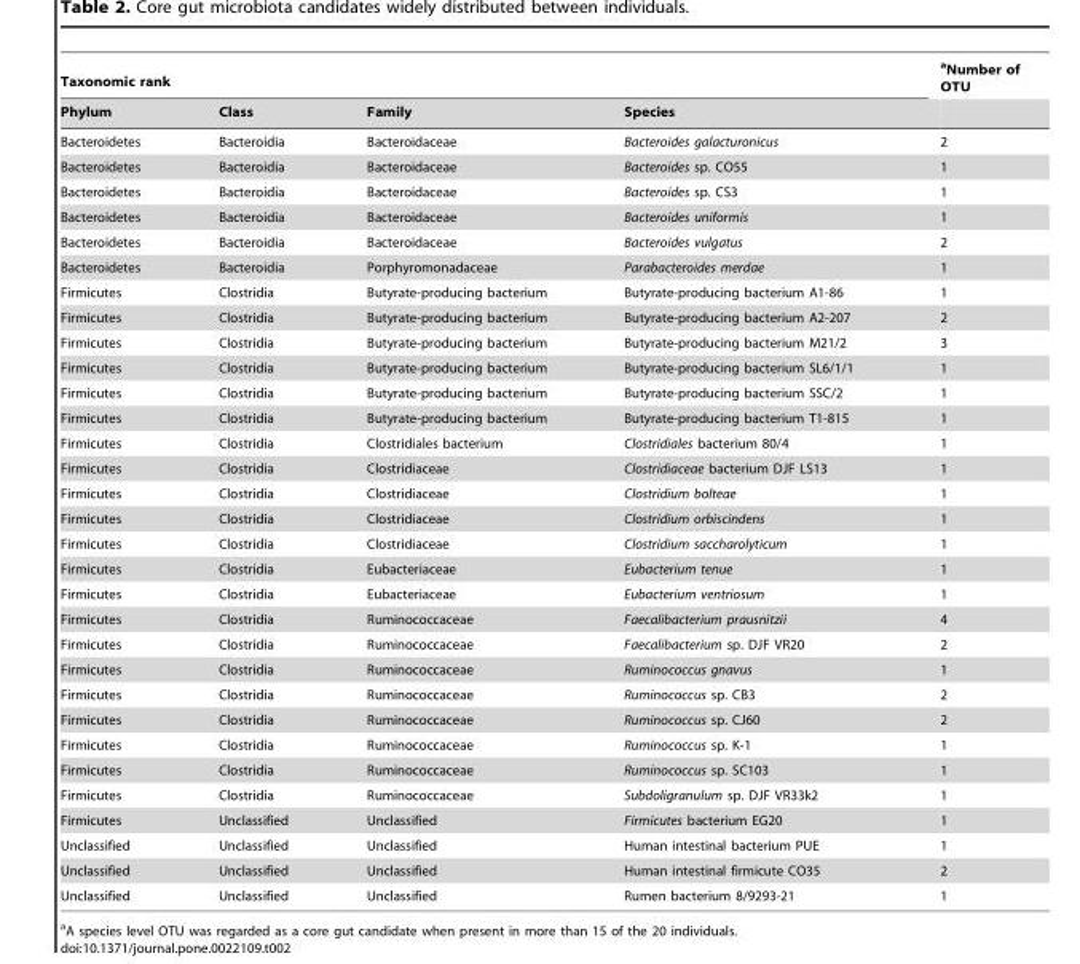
<table><thead><tr><td colspan="4">Taxonomic rank</td><td rowspan="2">aNumber of OTU</td></tr><tr><td>Phylum</td><td>Class</td><td>Family</td><td>Species</td></tr></thead><tbody><tr><td>Bacteroidetes</td><td>Bacteroidia</td><td>Bacteroidaceae</td><td>Bacteroides galacturonicus</td><td>2</td></tr><tr><td>Bacteroidetes</td><td>Bacteroidia</td><td>Bacteroidaceae</td><td>Bacteroides sp. CO55</td><td>1</td></tr><tr><td>Bacteroidetes</td><td>Bacteroidia</td><td>Bacteroidaceae</td><td>Bacteroides sp. CS3</td><td>1</td></tr><tr><td>Bacteroidetes</td><td>Bacteroidia</td><td>Bacteroidaceae</td><td>Bacteroides uniformis</td><td>1</td></tr><tr><td>Bacteroidetes</td><td>Bacteroidia</td><td>Bacteroidaceae</td><td>Bacteroides vulgatus</td><td>2</td></tr><tr><td>Bacteroidetes</td><td>Bacteroidia</td><td>Porphyromonadaceae</td><td>Parabacteroides merdae</td><td>1</td></tr><tr><td>Firmicutes</td><td>Clostridia</td><td>Butyrate-producing bacterium</td><td>Butyrate-producing bacterium A1-86</td><td>1</td></tr><tr><td>Firmicutes</td><td>Clostridia</td><td>Butyrate-producing bacterium</td><td>Butyrate-producing bacterium A2-207</td><td>2</td></tr><tr><td>Firmicutes</td><td>Clostridia</td><td>Butyrate-producing bacterium</td><td>Butyrate-producing bacterium M21/2</td><td>3</td></tr><tr><td>Firmicutes</td><td>Clostridia</td><td>Butyrate-producing bacterium</td><td>Butyrate-producing bacterium SL6/1/1</td><td>1</td></tr><tr><td>Firmicutes</td><td>Clostridia</td><td>Butyrate-producing bacterium</td><td>Butyrate-producing bacterium SSC/2</td><td>1</td></tr><tr><td>Firmicutes</td><td>Clostridia</td><td>Butyrate-producing bacterium</td><td>Butyrate-producing bacterium T1-815</td><td>1</td></tr><tr><td>Firmicutes</td><td>Clostridia</td><td>Clostridiales bacterium</td><td>Clostridiales bacterium 80/4</td><td>1</td></tr><tr><td>Firmicutes</td><td>Clostridia</td><td>Clostridiaceae</td><td>Clostridiaceae bacterium DJF LS13</td><td>1</td></tr><tr><td>Firmicutes</td><td>Clostridia</td><td>Clostridiaceae</td><td>Clostridium bolteae</td><td>1</td></tr><tr><td>Firmicutes</td><td>Clostridia</td><td>Clostridiaceae</td><td>Clostridium orbiscindens</td><td>1</td></tr><tr><td>Firmicutes</td><td>Clostridia</td><td>Clostridiaceae</td><td>Clostridium saccharolyticum</td><td>1</td></tr><tr><td>Firmicutes</td><td>Clostridia</td><td>Eubacteriaceae</td><td>Eubacterium tenue</td><td>1</td></tr><tr><td>Firmicutes</td><td>Clostridia</td><td>Eubacteriaceae</td><td>Eubacterium ventriosum</td><td>1</td></tr><tr><td>Firmicutes</td><td>Clostridia</td><td>Ruminococcaceae</td><td>Faecalibacterium prausnitzii</td><td>4</td></tr><tr><td>Firmicutes</td><td>Clostridia</td><td>Ruminococcaceae</td><td>Faecalibacterium sp. DJF VR20</td><td>2</td></tr><tr><td>Firmicutes</td><td>Clostridia</td><td>Ruminococcaceae</td><td>Ruminococcus gnavus</td><td>1</td></tr><tr><td>Firmicutes</td><td>Clostridia</td><td>Ruminococcaceae</td><td>Ruminococcus sp. CB3</td><td>2</td></tr><tr><td>Firmicutes</td><td>Clostridia</td><td>Ruminococcaceae</td><td>Ruminococcus sp. CJ60</td><td>2</td></tr><tr><td>Firmicutes</td><td>Clostridia</td><td>Ruminococcaceae</td><td>Ruminococcus sp. K-1</td><td>1</td></tr><tr><td>Firmicutes</td><td>Clostridia</td><td>Ruminococcaceae</td><td>Ruminococcus sp. SC103</td><td>1</td></tr><tr><td>Firmicutes</td><td>Clostridia</td><td>Ruminococcaceae</td><td>Subdoligranulum sp. DJF VR33k2</td><td>1</td></tr><tr><td>Firmicutes</td><td>Unclassified</td><td>Unclassified</td><td>Firmicutes bacterium EG20</td><td>1</td></tr><tr><td>Unclassified</td><td>Unclassified</td><td>Unclassified</td><td>Human intestinal bacterium PUE</td><td>1</td></tr><tr><td>Unclassified</td><td>Unclassified</td><td>Unclassified</td><td>Human intestinal firmicute CO35</td><td>2</td></tr><tr><td>Unclassified</td><td>Unclassified</td><td>Unclassified</td><td>Rumen bacterium 8/9293-21</td><td>1</td></tr></tbody></table>